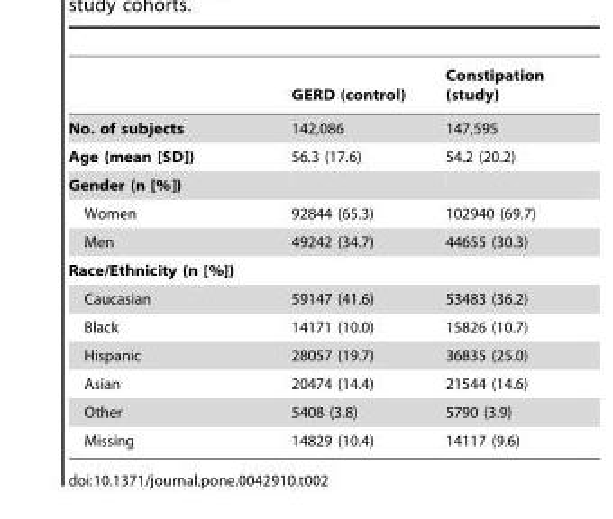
<table><thead><tr><td></td><td>GERD (control)</td><td>Constipation (study)</td></tr></thead><tbody><tr><td>No. of subjects</td><td>142,086</td><td>147,595</td></tr><tr><td>Age (mean [SD])</td><td>56.3 (17.6)</td><td>54.2 (20.2)</td></tr><tr><td colspan="3">Gender (n [%])</td></tr><tr><td>Women</td><td>92844 (65.3)</td><td>102940 (69.7)</td></tr><tr><td>Men</td><td>49242 (34.7)</td><td>44655 (30.3)</td></tr><tr><td colspan="3">Race/Ethnicity (n [%])</td></tr><tr><td>Caucasian</td><td>59147 (41.6)</td><td>53483 (36.2)</td></tr><tr><td>Black</td><td>14171 (10.0)</td><td>15826 (10.7)</td></tr><tr><td>Hispanic</td><td>28057 (19.7)</td><td>36835 (25.0)</td></tr><tr><td>Asian</td><td>20474 (14.4)</td><td>21544 (14.6)</td></tr><tr><td>Other</td><td>5408 (3.8)</td><td>5790 (3.9)</td></tr><tr><td>Missing</td><td>14829 (10.4)</td><td>14117 (9.6)</td></tr></tbody></table>